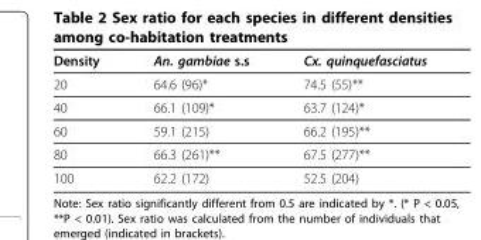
<table><thead><tr><td>Density</td><td>An. gambiae s.s</td><td>Cx. quinquefasciatus</td></tr></thead><tbody><tr><td>20</td><td>64.6 (96)*</td><td>74.5 (55)**</td></tr><tr><td>40</td><td>66.1 (109)*</td><td>63.7 (124)*</td></tr><tr><td>60</td><td>59.1 (215)</td><td>66.2 (195)**</td></tr><tr><td>80</td><td>66.3 (261)**</td><td>67.5 (277)**</td></tr><tr><td>100</td><td>62.2 (172)</td><td>52.5 (204)</td></tr></tbody></table>